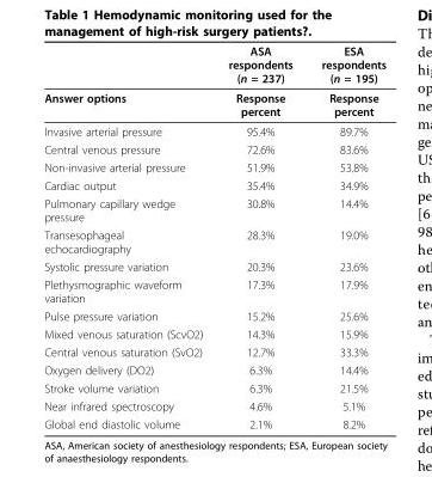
<table><thead><tr><td></td><td>ASA respondents (n = 237)</td><td>ESA respondents (n = 195)</td></tr></thead><tbody><tr><td>Answer options</td><td>Response percent</td><td>Response percent</td></tr><tr><td>Invasive arterial pressure</td><td>95.4%</td><td>89.7%</td></tr><tr><td>Central venous pressure</td><td>72.6%</td><td>83.6%</td></tr><tr><td>Non-invasive arterial pressure</td><td>51.9%</td><td>53.8%</td></tr><tr><td>Cardiac output</td><td>35.4%</td><td>34.9%</td></tr><tr><td>Pulmonary capillary wedge pressure</td><td>30.8%</td><td>14.4%</td></tr><tr><td>Transesophageal echocardiography</td><td>28.3%</td><td>19.0%</td></tr><tr><td>Systolic pressure variation</td><td>20.3%</td><td>23.6%</td></tr><tr><td>Plethysmographic waveform variation</td><td>17.3%</td><td>17.9%</td></tr><tr><td>Pulse pressure variation</td><td>15.2%</td><td>25.6%</td></tr><tr><td>Mixed venous saturation (ScvO2)</td><td>14.3%</td><td>15.9%</td></tr><tr><td>Central venous saturation (SvO2)</td><td>12.7%</td><td>33.3%</td></tr><tr><td>Oxygen delivery (DO2)</td><td>6.3%</td><td>14.4%</td></tr><tr><td>Stroke volume variation</td><td>6.3%</td><td>21.5%</td></tr><tr><td>Near infrared spectroscopy</td><td>4.6%</td><td>5.1%</td></tr><tr><td>Global end diastolic volume</td><td>2.1%</td><td>8.2%</td></tr></tbody></table>